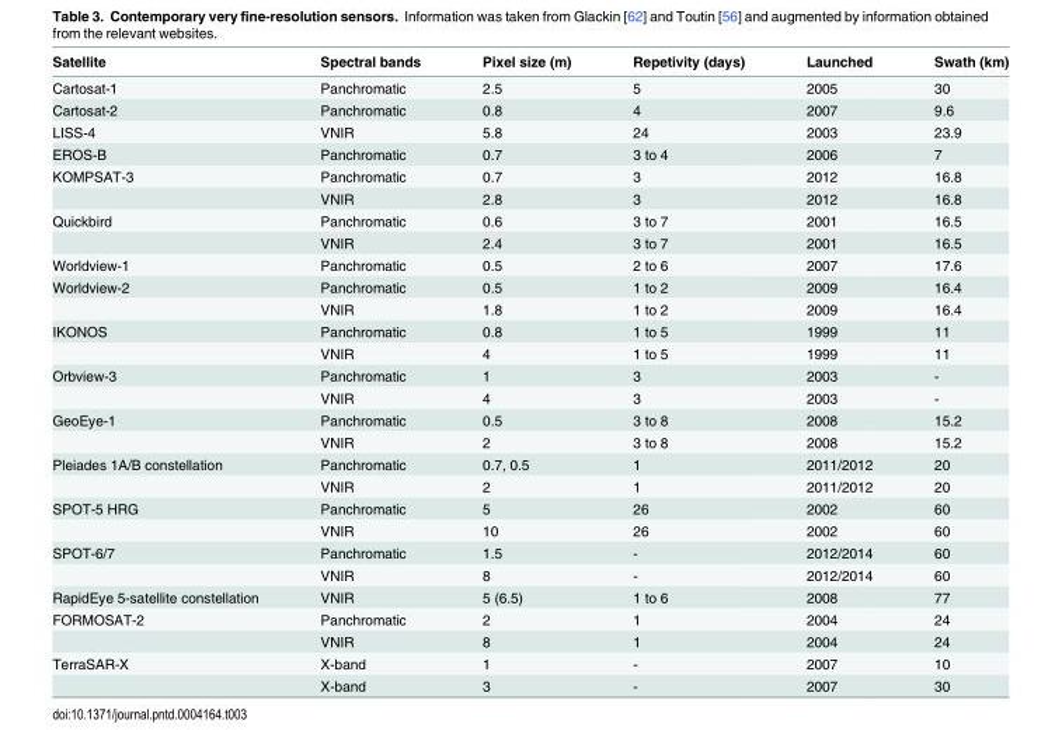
<table><thead><tr><td>Satellite</td><td>Spectral bands</td><td>Pixel size (m)</td><td>Repetivity (days)</td><td>Launched</td><td>Swath (km)</td></tr></thead><tbody><tr><td>Cartosat-1</td><td>Panchromatic</td><td>2.5</td><td>5</td><td>2005</td><td>30</td></tr><tr><td>Cartosat-2</td><td>Panchromatic</td><td>0.8</td><td>4</td><td>2007</td><td>9.6</td></tr><tr><td>LISS-4</td><td>VNIR</td><td>5.8</td><td>24</td><td>2003</td><td>23.9</td></tr><tr><td>EROS-B</td><td>Panchromatic</td><td>0.7</td><td>3 to 4</td><td>2006</td><td>7</td></tr><tr><td rowspan="2">KOMPSAT-3</td><td>Panchromatic</td><td>0.7</td><td>3</td><td>2012</td><td>16.8</td></tr><tr><td>VNIR</td><td>2.8</td><td>3</td><td>2012</td><td>16.8</td></tr><tr><td rowspan="2">Quickbird</td><td>Panchromatic</td><td>0.6</td><td>3 to 7</td><td>2001</td><td>16.5</td></tr><tr><td>VNIR</td><td>2.4</td><td>3 to 7</td><td>2001</td><td>16.5</td></tr><tr><td>Worldview-1</td><td>Panchromatic</td><td>0.5</td><td>2 to 6</td><td>2007</td><td>17.6</td></tr><tr><td rowspan="2">Worldview-2</td><td>Panchromatic</td><td>0.5</td><td>1 to 2</td><td>2009</td><td>16.4</td></tr><tr><td>VNIR</td><td>1.8</td><td>1 to 2</td><td>2009</td><td>16.4</td></tr><tr><td rowspan="2">IKONOS</td><td>Panchromatic</td><td>0.8</td><td>1 to 5</td><td>1999</td><td>11</td></tr><tr><td>VNIR</td><td>4</td><td>1 to 5</td><td>1999</td><td>11</td></tr><tr><td rowspan="2">Orbview-3</td><td>Panchromatic</td><td>1</td><td>3</td><td>2003</td><td>-</td></tr><tr><td>VNIR</td><td>4</td><td>3</td><td>2003</td><td>-</td></tr><tr><td rowspan="2">GeoEye-1</td><td>Panchromatic</td><td>0.5</td><td>3 to 8</td><td>2008</td><td>15.2</td></tr><tr><td>VNIR</td><td>2</td><td>3 to 8</td><td>2008</td><td>15.2</td></tr><tr><td rowspan="2">Pleiades 1A/B constellation</td><td>Panchromatic</td><td>0.7, 0.5</td><td>1</td><td>2011/2012</td><td>20</td></tr><tr><td>VNIR</td><td>2</td><td>1</td><td>2011/2012</td><td>20</td></tr><tr><td rowspan="2">SPOT-5 HRG</td><td>Panchromatic</td><td>5</td><td>26</td><td>2002</td><td>60</td></tr><tr><td>VNIR</td><td>10</td><td>26</td><td>2002</td><td>60</td></tr><tr><td rowspan="2">SPOT-6/7</td><td>Panchromatic</td><td>1.5</td><td>-</td><td>2012/2014</td><td>60</td></tr><tr><td>VNIR</td><td>8</td><td>-</td><td>2012/2014</td><td>60</td></tr><tr><td>RapidEye 5-satellite constellation</td><td>VNIR</td><td>5 (6.5)</td><td>1 to 6</td><td>2008</td><td>77</td></tr><tr><td rowspan="2">FORMOSAT-2</td><td>Panchromatic</td><td>2</td><td>1</td><td>2004</td><td>24</td></tr><tr><td>VNIR</td><td>8</td><td>1</td><td>2004</td><td>24</td></tr><tr><td rowspan="2">TerraSAR-X</td><td>X-band</td><td>1</td><td>-</td><td>2007</td><td>10</td></tr><tr><td>X-band</td><td>3</td><td>-</td><td>2007</td><td>30</td></tr></tbody></table>